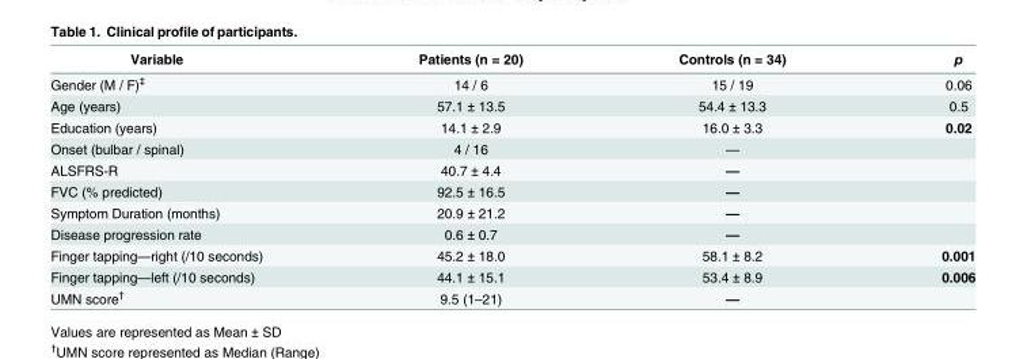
<table><thead><tr><td>Variable</td><td>Patients (n = 20)</td><td>Controls (n = 34)</td><td>p</td></tr></thead><tbody><tr><td>Gender (M / F)<sup>‡</sup></td><td>14 / 6</td><td>15 / 19</td><td>0.06</td></tr><tr><td>Age (years)</td><td>57.1 ± 13.5</td><td>54.4 ± 13.3</td><td>0.5</td></tr><tr><td>Education (years)</td><td>14.1 ± 2.9</td><td>16.0 ± 3.3</td><td>0.02</td></tr><tr><td>Onset (bulbar / spinal)</td><td>4 / 16</td><td>—</td><td></td></tr><tr><td>ALSFRS-R</td><td>40.7 ± 4.4</td><td>—</td><td></td></tr><tr><td>FVC (% predicted)</td><td>92.5 ± 16.5</td><td>—</td><td></td></tr><tr><td>Symptom Duration (months)</td><td>20.9 ± 21.2</td><td>—</td><td></td></tr><tr><td>Disease progression rate</td><td>0.6 ± 0.7</td><td>—</td><td></td></tr><tr><td>Finger tapping—right (/10 seconds)</td><td>45.2 ± 18.0</td><td>58.1 ± 8.2</td><td>0.001</td></tr><tr><td>Finger tapping—left (/10 seconds)</td><td>44.1 ± 15.1</td><td>53.4 ± 8.9</td><td>0.006</td></tr><tr><td>UMN score<sup>†</sup></td><td>9.5 (1–21)</td><td>—</td><td></td></tr></tbody></table>